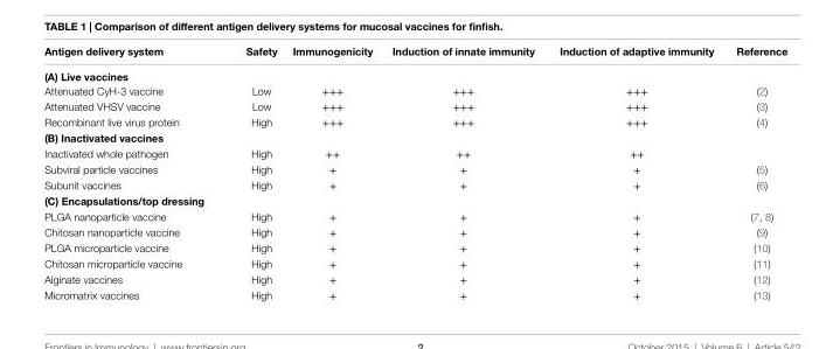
<table><thead><tr><td>Antigen delivery system</td><td>Safety</td><td>immunogenicity</td><td>induction of innate immunity</td><td>induction of adaptive immunity</td><td>Reference</td></tr></thead><tbody><tr><td colspan="6">(A) Live vaccines</td></tr><tr><td>Attenuated CyH-3 vaccine</td><td>Low</td><td>+++</td><td>+++</td><td>+++</td><td>(2)</td></tr><tr><td>Attenuated VHSV vaccine</td><td>Low</td><td>+++</td><td>+++</td><td>+++</td><td>(3)</td></tr><tr><td>Recombinant live virus protein</td><td>High</td><td>+++</td><td>+++</td><td>+++</td><td>(4)</td></tr><tr><td colspan="6">(B) inactivated vaccines</td></tr><tr><td>Inactivated whole pathogen</td><td>High</td><td>++</td><td>++</td><td>++</td><td></td></tr><tr><td>Subviral particle vaccines</td><td>High</td><td>+</td><td>+</td><td>+</td><td>(5)</td></tr><tr><td>Subunit vaccines</td><td>High</td><td>+</td><td>+</td><td>+</td><td>(6)</td></tr><tr><td colspan="6">(C) encapsulations/top dressing</td></tr><tr><td>PLGA nanoparticle vaccine</td><td>High</td><td>+</td><td>+</td><td>+</td><td>(7, 8)</td></tr><tr><td>Chitosan nanoparticle vaccine</td><td>High</td><td>+</td><td>+</td><td>+</td><td>(9)</td></tr><tr><td>PLGA microparticle vaccine</td><td>High</td><td>+</td><td>+</td><td>+</td><td>(10)</td></tr><tr><td>Chitosan microparticle vaccine</td><td>High</td><td>+</td><td>+</td><td>+</td><td>(11)</td></tr><tr><td>Alginate vaccines</td><td>High</td><td>+</td><td>+</td><td>+</td><td>(12)</td></tr><tr><td>Micromatrix vaccines</td><td>High</td><td>+</td><td>+</td><td>+</td><td>(13)</td></tr></tbody></table>